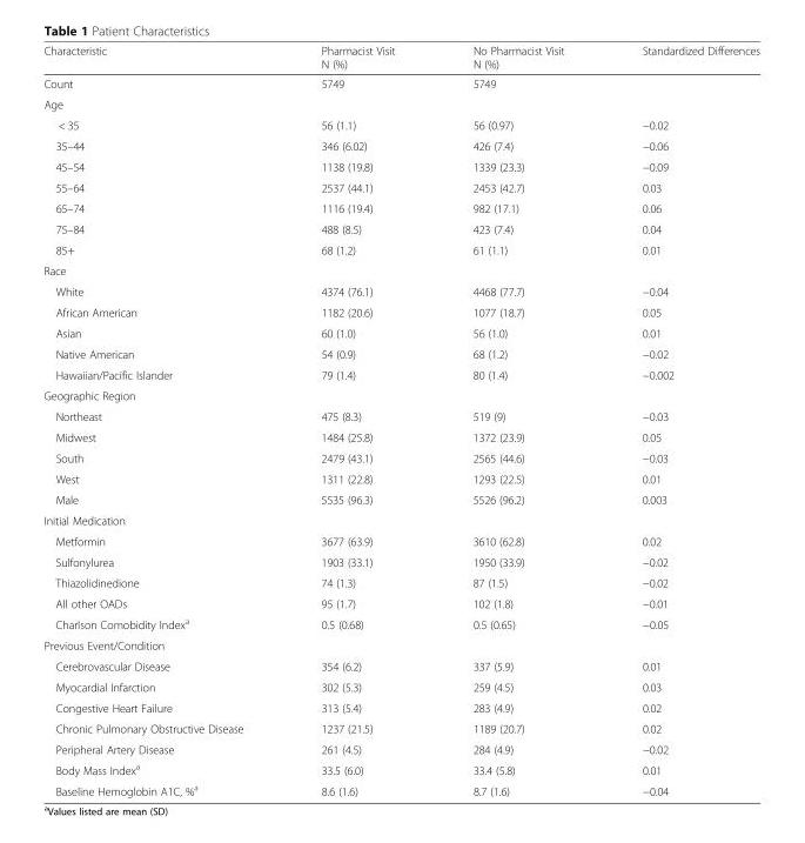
<table><thead><tr><td>Characteristic</td><td>Pharmacist Visit N (%)</td><td>No Pharmacist Visit N (%)</td><td>Standardized Differences</td></tr></thead><tbody><tr><td>Count</td><td>5749</td><td>5749</td><td></td></tr><tr><td colspan="4">Age</td></tr><tr><td>&lt; 35</td><td>56 (1.1)</td><td>56 (0.97)</td><td>−0.02</td></tr><tr><td>35–44</td><td>346 (6.02)</td><td>426 (7.4)</td><td>−0.06</td></tr><tr><td>45–54</td><td>1138 (19.8)</td><td>1339 (23.3)</td><td>−0.09</td></tr><tr><td>55–64</td><td>2537 (44.1)</td><td>2453 (42.7)</td><td>0.03</td></tr><tr><td>65–74</td><td>1116 (19.4)</td><td>982 (17.1)</td><td>0.06</td></tr><tr><td>75–84</td><td>488 (8.5)</td><td>423 (7.4)</td><td>0.04</td></tr><tr><td>85+</td><td>68 (1.2)</td><td>61 (1.1)</td><td>0.01</td></tr><tr><td colspan="4">Race</td></tr><tr><td>White</td><td>4374 (76.1)</td><td>4468 (77.7)</td><td>−0.04</td></tr><tr><td>African American</td><td>1182 (20.6)</td><td>1077 (18.7)</td><td>0.05</td></tr><tr><td>Asian</td><td>60 (1.0)</td><td>56 (1.0)</td><td>0.01</td></tr><tr><td>Native American</td><td>54 (0.9)</td><td>68 (1.2)</td><td>−0.02</td></tr><tr><td>Hawaiian/Pacific Islander</td><td>79 (1.4)</td><td>80 (1.4)</td><td>−0.002</td></tr><tr><td colspan="4">Geographic Region</td></tr><tr><td>Northeast</td><td>475 (8.3)</td><td>519 (9)</td><td>−0.03</td></tr><tr><td>Midwest</td><td>1484 (25.8)</td><td>1372 (23.9)</td><td>0.05</td></tr><tr><td>South</td><td>2479 (43.1)</td><td>2565 (44.6)</td><td>−0.03</td></tr><tr><td>West</td><td>1311 (22.8)</td><td>1293 (22.5)</td><td>0.01</td></tr><tr><td>Male</td><td>5535 (96.3)</td><td>5526 (96.2)</td><td>0.003</td></tr><tr><td colspan="4">Initial Medication</td></tr><tr><td>Metformin</td><td>3677 (63.9)</td><td>3610 (62.8)</td><td>0.02</td></tr><tr><td>Sulfonylurea</td><td>1903 (33.1)</td><td>1950 (33.9)</td><td>−0.02</td></tr><tr><td>Thiazolidinedione</td><td>74 (1.3)</td><td>87 (1.5)</td><td>−0.02</td></tr><tr><td>All other OADs</td><td>95 (1.7)</td><td>102 (1.8)</td><td>−0.01</td></tr><tr><td>Charlson Comobidity Index<sup>a</sup></td><td>0.5 (0.68)</td><td>0.5 (0.65)</td><td>−0.05</td></tr><tr><td colspan="4">Previous Event/Condition</td></tr><tr><td>Cerebrovascular Disease</td><td>354 (6.2)</td><td>337 (5.9)</td><td>0.01</td></tr><tr><td>Myocardial Infarction</td><td>302 (5.3)</td><td>259 (4.5)</td><td>0.03</td></tr><tr><td>Congestive Heart Failure</td><td>313 (5.4)</td><td>283 (4.9)</td><td>0.02</td></tr><tr><td>Chronic Pulmonary Obstructive Disease</td><td>1237 (21.5)</td><td>1189 (20.7)</td><td>0.02</td></tr><tr><td>Peripheral Artery Disease</td><td>261 (4.5)</td><td>284 (4.9)</td><td>−0.02</td></tr><tr><td>Body Mass Index<sup>a</sup></td><td>33.5 (6.0)</td><td>33.4 (5.8)</td><td>0.01</td></tr><tr><td>Baseline Hemoglobin A1C, %<sup>a</sup></td><td>8.6 (1.6)</td><td>8.7 (1.6)</td><td>−0.04</td></tr></tbody></table>